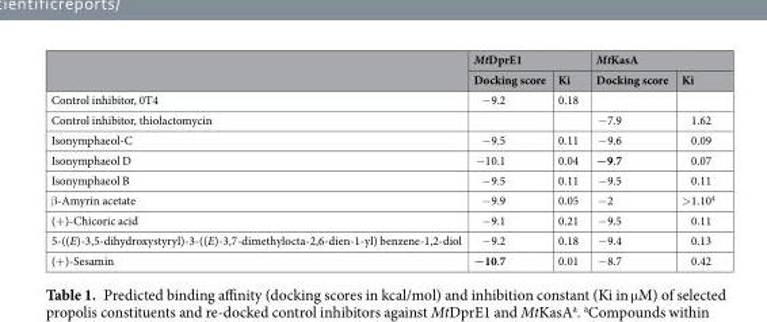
<table><thead><tr><td rowspan="2"></td><td colspan="2">MtDprE1</td><td colspan="2">MtKasA</td></tr><tr><td>Docking score</td><td>Ki</td><td>Docking score</td><td>Ki</td></tr></thead><tbody><tr><td>Control inhibitor, 0T4</td><td>−9.2</td><td>0.18</td><td></td><td></td></tr><tr><td>Control inhibitor, thiolactomycin</td><td></td><td></td><td>−7.9</td><td>1.62</td></tr><tr><td>Isonymphaeol-C</td><td>−9.5</td><td>0.11</td><td>−9.6</td><td>0.09</td></tr><tr><td>Isonymphaeol D</td><td>−10.1</td><td>0.04</td><td>−9.7</td><td>0.07</td></tr><tr><td>Isonymphaeol B</td><td>−9.5</td><td>0.11</td><td>−9.5</td><td>0.11</td></tr><tr><td>β-Amyrin acetate</td><td>−9.9</td><td>0.05</td><td>−2</td><td>&gt;1.10<sup>4</sup></td></tr><tr><td>(+)-Chicoric acid</td><td>−9.1</td><td>0.21</td><td>−9.5</td><td>0.11</td></tr><tr><td>5-((E)-3,5-dihydroxystyryl)-3-((E)-3,7-dimethylocta-2,6-dien-1-yl) benzene-1,2-diol</td><td>−9.2</td><td>0.18</td><td>−9.4</td><td>0.13</td></tr><tr><td>(+)-Sesamin</td><td>−10.7</td><td>0.01</td><td>−8.7</td><td>0.42</td></tr></tbody></table>